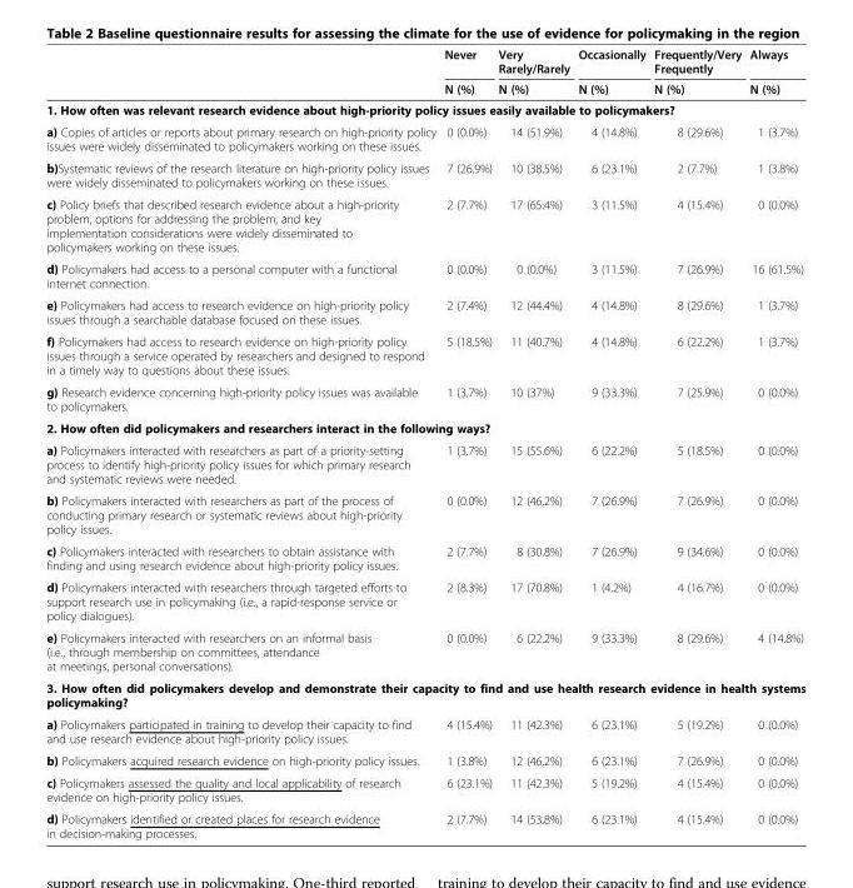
<table><thead><tr><td rowspan="2"></td><td rowspan="2">Never N (%)</td><td rowspan="2">Very Rarely/Rarely N (%)</td><td rowspan="2">Occasionally N (%)</td><td rowspan="2">Frequently/Very Frequently N (%)</td><td rowspan="2">Always N (%)</td></tr><tr></tr></thead><tbody><tr><td colspan="6">1. How often was relevant research evidence about high-priority policy issues easily available to policymakers?</td></tr><tr><td>a) Copies of articles or reports about primary research on high-priority policy issues were widely disseminated to policymakers working on these issues.</td><td>0 (0.0%)</td><td>14 (51.9%)</td><td>4 (14.8%)</td><td>8 (29.6%)</td><td>1 (3.7%)</td></tr><tr><td>b)Systematic reviews of the research literature on high-priority policy issues were widely disseminated to policymakers working on these issues.</td><td>7 (26.9%)</td><td>10 (38.5%)</td><td>6 (23.1%)</td><td>2 (7.7%)</td><td>1 (3.8%)</td></tr><tr><td>c) Policy briefs that described research evidence about a high-priority problem, options for addressing the problem, and key implementation considerations were widely disseminated to policymakers working on these issues.</td><td>2 (7.7%)</td><td>17 (65.4%)</td><td>3 (11.5%)</td><td>4 (15.4%)</td><td>0 (0.0%)</td></tr><tr><td>d) Policymakers had access to a personal computer with a functional internet connection.</td><td>0 (0.0%)</td><td>0 (0.0%)</td><td>3 (11.5%)</td><td>7 (26.9%)</td><td>16 (61.5%)</td></tr><tr><td>e) Policymakers had access to research evidence on high-priority policy issues through a searchable database focused on these issues.</td><td>2 (7.4%)</td><td>12 (44.4%)</td><td>4 (14.8%)</td><td>8 (29.6%)</td><td>1 (3.7%)</td></tr><tr><td>f) Policymakers had access to research evidence on high-priority policy issues through a service operated by researchers and designed to respond in a timely way to questions about these issues.</td><td>5 (18.5%)</td><td>11 (40.7%)</td><td>4 (14.8%)</td><td>6 (22.2%)</td><td>1 (3.7%)</td></tr><tr><td>g) Research evidence concerning high-priority policy issues was available to policymakers.</td><td>1 (3.7%)</td><td>10 (37%)</td><td>9 (33.3%)</td><td>7 (25.9%)</td><td>0 (0.0%)</td></tr><tr><td colspan="6">2. How often did policymakers and researchers interact in the following ways?</td></tr><tr><td>a) Policymakers interacted with researchers as part of a priority-setting process to identify high-priority policy issues for which primary research and systematic reviews were needed.</td><td>1 (3.7%)</td><td>15 (55.6%)</td><td>6 (22.2%)</td><td>5 (18.5%)</td><td>0 (0.0%)</td></tr><tr><td>b) Policymakers interacted with researchers as part of the process of conducting primary research or systematic reviews about high-priority policy issues.</td><td>0 (0.0%)</td><td>12 (46.2%)</td><td>7 (26.9%)</td><td>7 (26.9%)</td><td>0 (0.0%)</td></tr><tr><td>c) Policymakers interacted with researchers to obtain assistance with finding and using research evidence about high-priority policy issues.</td><td>2 (7.7%)</td><td>8 (30.8%)</td><td>7 (26.9%)</td><td>9 (34.6%)</td><td>0 (0.0%)</td></tr><tr><td>d) Policymakers interacted with researchers through targeted efforts to support research use in policymaking (i.e., a rapid-response service or policy dialogues).</td><td>2 (8.3%)</td><td>17 (70.8%)</td><td>1 (4.2%)</td><td>4 (16.7%)</td><td>0 (0.0%)</td></tr><tr><td>e) Policymakers interacted with researchers on an informal basis (i.e., through membership on committees, attendance at meetings, personal conversations).</td><td>0 (0.0%)</td><td>6 (22.2%)</td><td>9 (33.3%)</td><td>8 (29.6%)</td><td>4 (14.8%)</td></tr><tr><td colspan="6">3. How often did policymakers develop and demonstrate their capacity to find and use health research evidence in health systems policymaking?</td></tr><tr><td>a) Policymakers participated in training to develop their capacity to find and use research evidence about high-priority policy issues.</td><td>4 (15.4%)</td><td>11 (42.3%)</td><td>6 (23.1%)</td><td>5 (19.2%)</td><td>0 (0.0%)</td></tr><tr><td>b) Policymakers acquired research evidence on high-priority policy issues.</td><td>1 (3.8%)</td><td>12 (46.2%)</td><td>6 (23.1%)</td><td>7 (26.9%)</td><td>0 (0.0%)</td></tr><tr><td>c) Policymakers assessed the quality and local applicability of research evidence on high-priority policy issues.</td><td>6 (23.1%)</td><td>11 (42.3%)</td><td>5 (19.2%)</td><td>4 (15.4%)</td><td>0 (0.0%)</td></tr><tr><td>d) Policymakers identified or created places for research evidence in decision-making processes.</td><td>2 (7.7%)</td><td>14 (53.8%)</td><td>6 (23.1%)</td><td>4 (15.4%)</td><td>0 (0.0%)</td></tr></tbody></table>